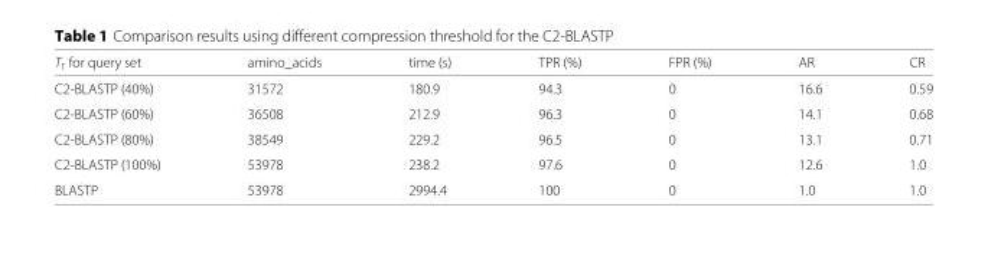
<table><thead><tr><td>T<sub>t</sub> for query set</td><td>amino_acids</td><td>time (s)</td><td>TPR (%)</td><td>FPR (%)</td><td>AR</td><td>CR</td></tr></thead><tbody><tr><td>C2-BLASTP (40%)</td><td>31572</td><td>180.9</td><td>94.3</td><td>0</td><td>16.6</td><td>0.59</td></tr><tr><td>C2-BLASTP (60%)</td><td>36508</td><td>212.9</td><td>96.3</td><td>0</td><td>14.1</td><td>0.68</td></tr><tr><td>C2-BLASTP (80%)</td><td>38549</td><td>229.2</td><td>96.5</td><td>0</td><td>13.1</td><td>0.71</td></tr><tr><td>C2-BLASTP (100%)</td><td>53978</td><td>238.2</td><td>97.6</td><td>0</td><td>12.6</td><td>1.0</td></tr><tr><td>BLASTP</td><td>53978</td><td>2994.4</td><td>100</td><td>0</td><td>1.0</td><td>1.0</td></tr></tbody></table>